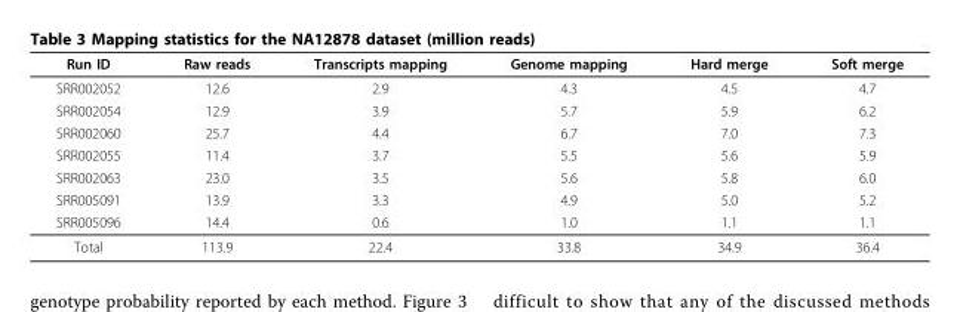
<table><thead><tr><td>Run ID</td><td>Raw reads</td><td>Transcripts mapping</td><td>Genome mapping</td><td>Hard merge</td><td>Soft merge</td></tr></thead><tbody><tr><td>SRR002052</td><td>12.6</td><td>2.9</td><td>4.3</td><td>4.5</td><td>4.7</td></tr><tr><td>SRR002054</td><td>12.9</td><td>3.9</td><td>5.7</td><td>5.9</td><td>6.2</td></tr><tr><td>SRR002060</td><td>25.7</td><td>4.4</td><td>6.7</td><td>7.0</td><td>7.3</td></tr><tr><td>SRR002055</td><td>11.4</td><td>3.7</td><td>5.5</td><td>5.6</td><td>5.9</td></tr><tr><td>SRR002063</td><td>23.0</td><td>3.5</td><td>5.6</td><td>5.8</td><td>6.0</td></tr><tr><td>SRR005091</td><td>13.9</td><td>3.3</td><td>4.9</td><td>5.0</td><td>5.2</td></tr><tr><td>SRR005096</td><td>14.4</td><td>0.6</td><td>1.0</td><td>1.1</td><td>1.1</td></tr><tr><td>Total</td><td>113.9</td><td>22.4</td><td>33.8</td><td>34.9</td><td>36.4</td></tr></tbody></table>